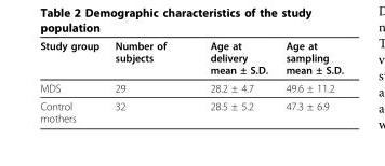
<table><thead><tr><td>Study group</td><td>Number of subjects</td><td>Age at delivery mean ± S.D.</td><td>Age at sampling mean ± S.D.</td></tr></thead><tbody><tr><td>MDS</td><td>29</td><td>28.2 ± 4.7</td><td>49.6 ± 11.2</td></tr><tr><td>Control mothers</td><td>32</td><td>28.5 ± 5.2</td><td>47.3 ± 6.9</td></tr></tbody></table>